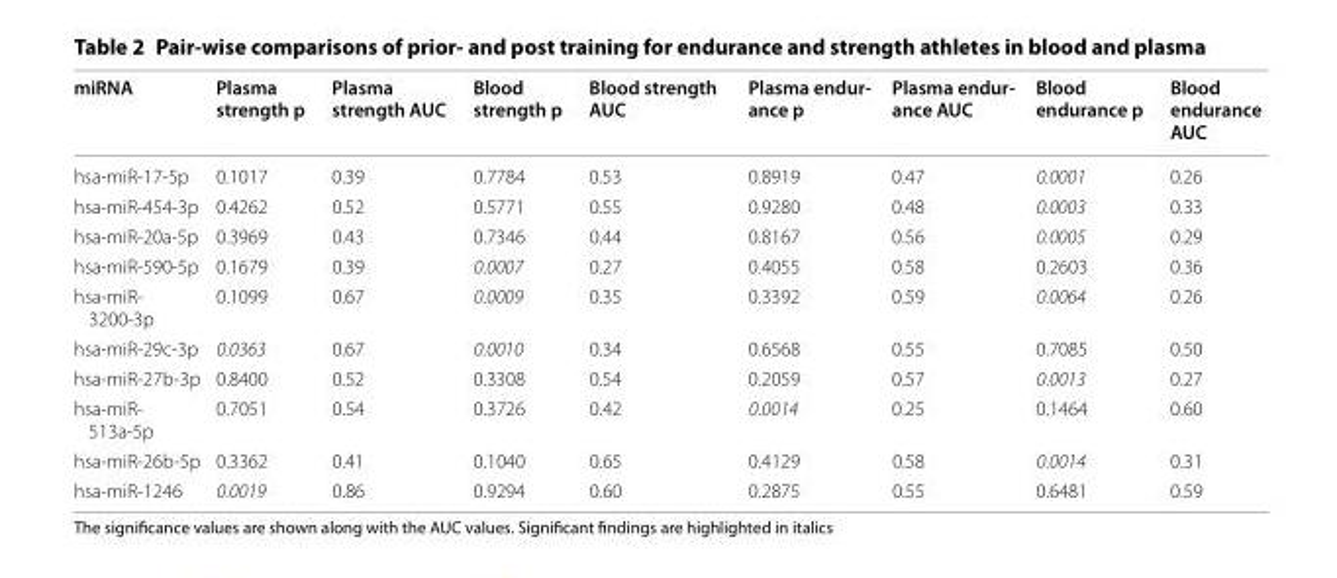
<table><thead><tr><td>miRNA</td><td>Plasma strength p</td><td>Plasma strength AUC</td><td>Blood strength p</td><td>Blood strength AUC</td><td>Plasma endur- ance p</td><td>Plasma endur- ance AUC</td><td>Blood endurance p</td><td>Blood endurance AUC</td></tr></thead><tbody><tr><td>hsa-miR-17-5p</td><td>0.1017</td><td>0.39</td><td>0.7784</td><td>0.53</td><td>0.8919</td><td>0.47</td><td>0.0001</td><td>0.26</td></tr><tr><td>hsa-miR-454-3p</td><td>0.4262</td><td>0.52</td><td>0.5771</td><td>0.55</td><td>0.9280</td><td>0.48</td><td>0.0003</td><td>0.33</td></tr><tr><td>hsa-miR-20a-5p</td><td>0.3969</td><td>0.43</td><td>0.7346</td><td>0.44</td><td>0.8167</td><td>0.56</td><td>0.0005</td><td>0.29</td></tr><tr><td>hsa-miR-590-5p</td><td>0.1679</td><td>0.39</td><td>0.0007</td><td>0.27</td><td>0.4055</td><td>0.58</td><td>0.2603</td><td>0.36</td></tr><tr><td>hsa-miR- 3200-3p</td><td>0.1099</td><td>0.67</td><td>0.0009</td><td>0.35</td><td>0.3392</td><td>0.59</td><td>0.0064</td><td>0.26</td></tr><tr><td>hsa-miR-29c-3p</td><td>0.0363</td><td>0.67</td><td>0.0010</td><td>0.34</td><td>0.6568</td><td>0.55</td><td>0.7085</td><td>0.50</td></tr><tr><td>hsa-miR-27b-3p</td><td>0.8400</td><td>0.52</td><td>0.3308</td><td>0.54</td><td>0.2059</td><td>0.57</td><td>0.0013</td><td>0.27</td></tr><tr><td>hsa-miR- 513a-5p</td><td>0.7051</td><td>0.54</td><td>0.3726</td><td>0.42</td><td>0.0014</td><td>0.25</td><td>0.1464</td><td>0.60</td></tr><tr><td>hsa-miR-26b-5p</td><td>0.3362</td><td>0.41</td><td>0.1040</td><td>0.65</td><td>0.4129</td><td>0.58</td><td>0.0014</td><td>0.31</td></tr><tr><td>hsa-miR-1246</td><td>0.0019</td><td>0.86</td><td>0.9294</td><td>0.60</td><td>0.2875</td><td>0.55</td><td>0.6481</td><td>0.59</td></tr></tbody></table>